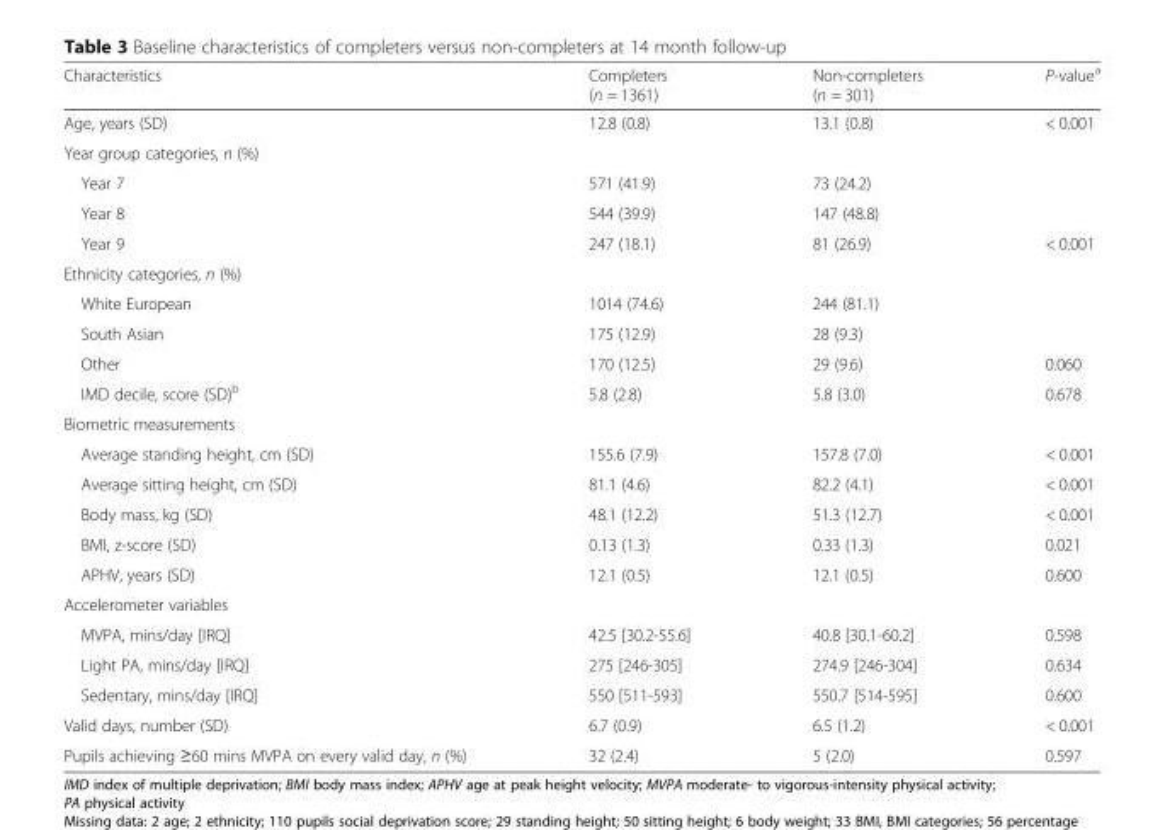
<table><thead><tr><td>Characteristics</td><td>Completers (n = 1361)</td><td>Non-completers (n = 301)</td><td>P-value<sup>a</sup></td></tr></thead><tbody><tr><td>Age, years (SD)</td><td>12.8 (0.8)</td><td>13.1 (0.8)</td><td>&lt; 0.001</td></tr><tr><td colspan="4">Year group categories, n (%)</td></tr><tr><td>Year 7</td><td>571 (41.9)</td><td>73 (24.2)</td><td></td></tr><tr><td>Year 8</td><td>544 (39.9)</td><td>147 (48.8)</td><td></td></tr><tr><td>Year 9</td><td>247 (18.1)</td><td>81 (26.9)</td><td>&lt; 0.001</td></tr><tr><td colspan="4">Ethnicity categories, n (%)</td></tr><tr><td>White European</td><td>1014 (74.6)</td><td>244 (81.1)</td><td></td></tr><tr><td>South Asian</td><td>175 (12.9)</td><td>28 (9.3)</td><td></td></tr><tr><td>Other</td><td>170 (12.5)</td><td>29 (9.6)</td><td>0.060</td></tr><tr><td>IMD decile, score (SD)<sup>b</sup></td><td>5.8 (2.8)</td><td>5.8 (3.0)</td><td>0.678</td></tr><tr><td colspan="4">Biometric measurements</td></tr><tr><td>Average standing height, cm (SD)</td><td>155.6 (7.9)</td><td>157.8 (7.0)</td><td>&lt; 0.001</td></tr><tr><td>Average sitting height, cm (SD)</td><td>81.1 (4.6)</td><td>82.2 (4.1)</td><td>&lt; 0.001</td></tr><tr><td>Body mass, kg (SD)</td><td>48.1 (12.2)</td><td>51.3 (12.7)</td><td>&lt; 0.001</td></tr><tr><td>BMI, z-score (SD)</td><td>0.13 (1.3)</td><td>0.33 (1.3)</td><td>0.021</td></tr><tr><td>APHV, years (SD)</td><td>12.1 (0.5)</td><td>12.1 (0.5)</td><td>0.600</td></tr><tr><td colspan="4">Accelerometer variables</td></tr><tr><td>MVPA, mins/day [IRQ]</td><td>42.5 [30.2-55.6]</td><td>40.8 [30.1-60.2]</td><td>0.598</td></tr><tr><td>Light PA, mins/day [IRQ]</td><td>275 [246-305]</td><td>274.9 [246-304]</td><td>0.634</td></tr><tr><td>Sedentary, mins/day [IRQ]</td><td>550 [511-593]</td><td>550.7 [514-595]</td><td>0.600</td></tr><tr><td>Valid days, number (SD)</td><td>6.7 (0.9)</td><td>6.5 (1.2)</td><td>&lt; 0.001</td></tr><tr><td>Pupils achieving ≥60 mins MVPA on every valid day, n (%)</td><td>32 (2.4)</td><td>5 (2.0)</td><td>0.597</td></tr></tbody></table>